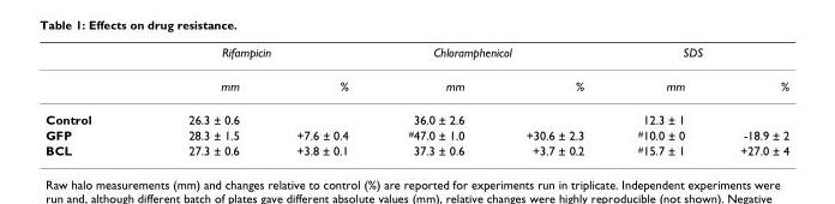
<table><thead><tr><td rowspan="2"></td><td colspan="2">Rifampicin</td><td colspan="2">Chloramphenicol</td><td colspan="2">SDS</td></tr><tr><td>mm</td><td>%</td><td>mm</td><td>%</td><td>mm</td><td>%</td></tr></thead><tbody><tr><td>Control</td><td>26.3 ± 0.6</td><td></td><td>36.0 ± 2.6</td><td></td><td>12.3 ± 1</td><td></td></tr><tr><td>GFP</td><td>28.3 ± 1.5</td><td>+7.6 ± 0.4</td><td><sup>#</sup>47.0 ± 1.0</td><td>+30.6 ± 2.3</td><td><sup>#</sup>10.0 ± 0</td><td>-18.9 ± 2</td></tr><tr><td>BCL</td><td>27.3 ± 0.6</td><td>+3.8 ± 0.1</td><td>37.3 ± 0.6</td><td>+3.7 ± 0.2</td><td><sup>#</sup>15.7 ± 1</td><td>+27.0 ± 4</td></tr></tbody></table>